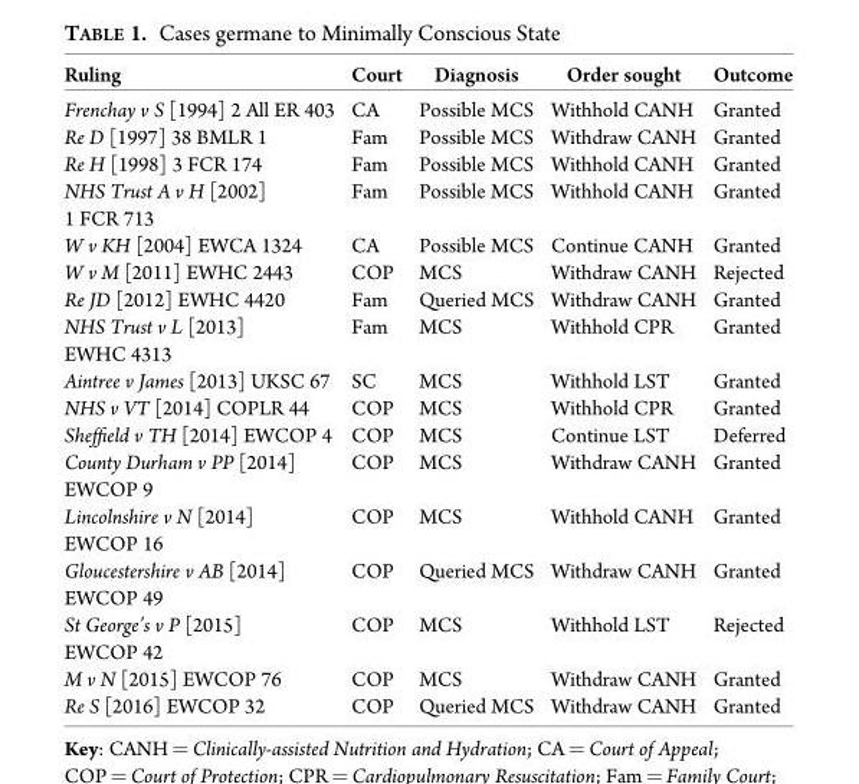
<table><thead><tr><td>Ruling</td><td>Court</td><td>Diagnosis</td><td>Order sought</td><td>Outcome</td></tr></thead><tbody><tr><td>Frenchay v S [1994] 2 All ER 403</td><td>CA</td><td>Possible MCS</td><td>Withhold CANH</td><td>Granted</td></tr><tr><td>Re D [1997] 38 BMLR 1</td><td>Fam</td><td>Possible MCS</td><td>Withdraw CANH</td><td>Granted</td></tr><tr><td>Re H [1998] 3 FCR 174</td><td>Fam</td><td>Possible MCS</td><td>Withhold CANH</td><td>Granted</td></tr><tr><td>NHS Trust A v H [2002] 1 FCR 713</td><td>Fam</td><td>Possible MCS</td><td>Withhold CANH</td><td>Granted</td></tr><tr><td>W v KH [2004] EWCA 1324</td><td>CA</td><td>Possible MCS</td><td>Continue CANH</td><td>Granted</td></tr><tr><td>W v M [2011] EWHC 2443</td><td>COP</td><td>MCS</td><td>Withdraw CANH</td><td>Rejected</td></tr><tr><td>Re JD [2012] EWHC 4420</td><td>Fam</td><td>Queried MCS</td><td>Withdraw CANH</td><td>Granted</td></tr><tr><td>NHS Trust v L [2013] EWHC 4313</td><td>Fam</td><td>MCS</td><td>Withhold CPR</td><td>Granted</td></tr><tr><td>Aintree v James [2013] UKSC 67</td><td>SC</td><td>MCS</td><td>Withhold LST</td><td>Granted</td></tr><tr><td>NHS v VT [2014] COPLR 44</td><td>COP</td><td>MCS</td><td>Withhold CPR</td><td>Granted</td></tr><tr><td>Sheffield v TH [2014] EWCOP 4</td><td>COP</td><td>MCS</td><td>Continue LST</td><td>Deferred</td></tr><tr><td>County Durham v PP [2014] EWCOP 9</td><td>COP</td><td>MCS</td><td>Withdraw CANH</td><td>Granted</td></tr><tr><td>Lincolnshire v N [2014] EWCOP 16</td><td>COP</td><td>MCS</td><td>Withhold CANH</td><td>Granted</td></tr><tr><td>Gloucestershire v AB [2014] EWCOP 49</td><td>COP</td><td>Queried MCS</td><td>Withdraw CANH</td><td>Granted</td></tr><tr><td>St George’s v P [2015] EWCOP 42</td><td>COP</td><td>MCS</td><td>Withhold LST</td><td>Rejected</td></tr><tr><td>M v N [2015] EWCOP 76</td><td>COP</td><td>MCS</td><td>Withdraw CANH</td><td>Granted</td></tr><tr><td>Re S [2016] EWCOP 32</td><td>COP</td><td>Queried MCS</td><td>Withdraw CANH</td><td>Granted</td></tr></tbody></table>